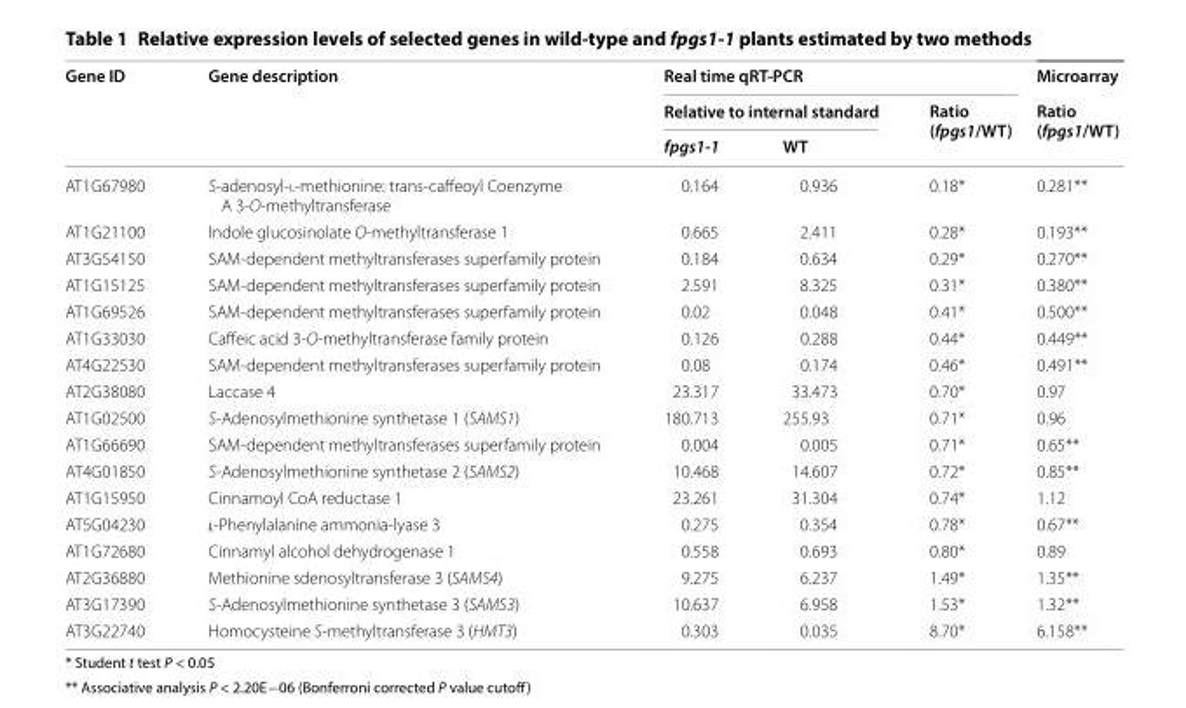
<table><thead><tr><td rowspan="3">Gene ID</td><td rowspan="3">Gene description</td><td colspan="3">Real time qRT‑PCR</td><td rowspan="3">Microarray Ratio (fpgs1/WT)</td></tr><tr><td colspan="2">Relative to internal standard</td><td rowspan="2">Ratio (fpgs1/WT)</td></tr><tr><td>fpgs1‑1</td><td>WT</td></tr></thead><tbody><tr><td>AT1G67980</td><td>S-adenosyl-l-methionine: trans-caffeoyl Coenzyme A 3-O-methyltransferase</td><td>0.164</td><td>0.936</td><td>0.18*</td><td>0.281**</td></tr><tr><td>AT1G21100</td><td>Indole glucosinolate O-methyltransferase 1</td><td>0.665</td><td>2.411</td><td>0.28*</td><td>0.193**</td></tr><tr><td>AT3G54150</td><td>SAM-dependent methyltransferases superfamily protein</td><td>0.184</td><td>0.634</td><td>0.29*</td><td>0.270**</td></tr><tr><td>AT1G15125</td><td>SAM-dependent methyltransferases superfamily protein</td><td>2.591</td><td>8.325</td><td>0.31*</td><td>0.380**</td></tr><tr><td>AT1G69526</td><td>SAM-dependent methyltransferases superfamily protein</td><td>0.02</td><td>0.048</td><td>0.41*</td><td>0.500**</td></tr><tr><td>AT1G33030</td><td>Caffeic acid 3-O-methyltransferase family protein</td><td>0.126</td><td>0.288</td><td>0.44*</td><td>0.449**</td></tr><tr><td>AT4G22530</td><td>SAM-dependent methyltransferases superfamily protein</td><td>0.08</td><td>0.174</td><td>0.46*</td><td>0.491**</td></tr><tr><td>AT2G38080</td><td>Laccase 4</td><td>23.317</td><td>33.473</td><td>0.70*</td><td>0.97</td></tr><tr><td>AT1G02500</td><td>S-Adenosylmethionine synthetase 1 (SAMS1)</td><td>180.713</td><td>255.93</td><td>0.71*</td><td>0.96</td></tr><tr><td>AT1G66690</td><td>SAM-dependent methyltransferases superfamily protein</td><td>0.004</td><td>0.005</td><td>0.71*</td><td>0.65**</td></tr><tr><td>AT4G01850</td><td>S-Adenosylmethionine synthetase 2 (SAMS2)</td><td>10.468</td><td>14.607</td><td>0.72*</td><td>0.85**</td></tr><tr><td>AT1G15950</td><td>Cinnamoyl CoA reductase 1</td><td>23.261</td><td>31.304</td><td>0.74*</td><td>1.12</td></tr><tr><td>AT5G04230</td><td>l-Phenylalanine ammonia-lyase 3</td><td>0.275</td><td>0.354</td><td>0.78*</td><td>0.67**</td></tr><tr><td>AT1G72680</td><td>Cinnamyl alcohol dehydrogenase 1</td><td>0.558</td><td>0.693</td><td>0.80*</td><td>0.89</td></tr><tr><td>AT2G36880</td><td>Methionine sdenosyltransferase 3 (SAMS4)</td><td>9.275</td><td>6.237</td><td>1.49*</td><td>1.35**</td></tr><tr><td>AT3G17390</td><td>S-Adenosylmethionine synthetase 3 (SAMS3)</td><td>10.637</td><td>6.958</td><td>1.53*</td><td>1.32**</td></tr><tr><td>AT3G22740</td><td>Homocysteine S-methyltransferase 3 (HMT3)</td><td>0.303</td><td>0.035</td><td>8.70*</td><td>6.158**</td></tr></tbody></table>